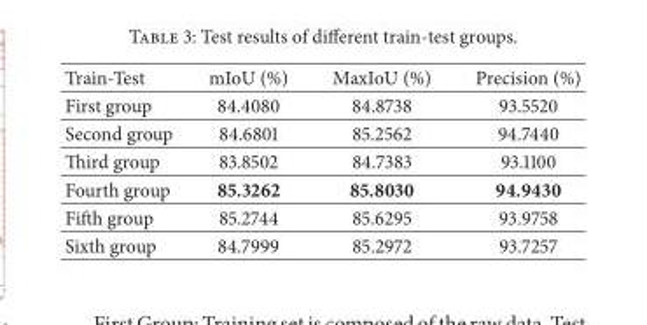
<table><thead><tr><td>Train-Test</td><td>mIoU (%)</td><td>MaxIoU (%)</td><td>Precision (%)</td></tr></thead><tbody><tr><td>First group</td><td>84.4080</td><td>84.8738</td><td>93.5520</td></tr><tr><td>Second group</td><td>84.6801</td><td>85.2562</td><td>94.7440</td></tr><tr><td>Third group</td><td>83.8502</td><td>84.7383</td><td>93.1100</td></tr><tr><td>Fourth group</td><td>85.3262</td><td>85.8030</td><td>94.9430</td></tr><tr><td>Fifth group</td><td>85.2744</td><td>85.6295</td><td>93.9758</td></tr><tr><td>Sixth group</td><td>84.7999</td><td>85.2972</td><td>93.7257</td></tr></tbody></table>